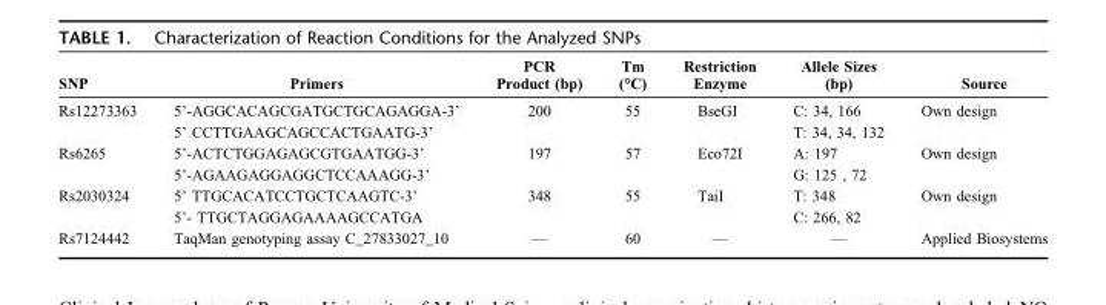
<table><thead><tr><td>SNP</td><td>Primers</td><td>PCR Product (bp)</td><td>Tm (°C)</td><td>Restriction Enzyme</td><td>Allele Sizes (bp)</td><td>Source</td></tr></thead><tbody><tr><td rowspan="2">Rs12273363</td><td>5’-AGGCACAGCGATGCTGCAGAGGA-3’</td><td>200</td><td>55</td><td>BseGI</td><td>C: 34, 166</td><td>Own design</td></tr><tr><td>5’ CCTTGAAGCAGCCACTGAATG-3’</td><td></td><td></td><td></td><td>T: 34, 34, 132</td><td></td></tr><tr><td rowspan="2">Rs6265</td><td>5’-ACTCTGGAGAGCGTGAATGG-3’</td><td>197</td><td>57</td><td>Eco72I</td><td>A: 197</td><td>Own design</td></tr><tr><td>5’-AGAAGAGGAGGCTCCAAAGG-3’</td><td></td><td></td><td></td><td>G: 125 , 72</td><td></td></tr><tr><td rowspan="2">Rs2030324</td><td>5’ TTGCACATCCTGCTCAAGTC-3’</td><td>348</td><td>55</td><td>TaiI</td><td>T: 348</td><td>Own design</td></tr><tr><td>5’- TTGCTAGGAGAAAAGCCATGA</td><td></td><td></td><td></td><td>C: 266, 82</td><td></td></tr><tr><td>Rs7124442</td><td>TaqMan genotyping assay C_27833027_10</td><td>—</td><td>60</td><td>—</td><td>—</td><td>Applied Biosystems</td></tr></tbody></table>